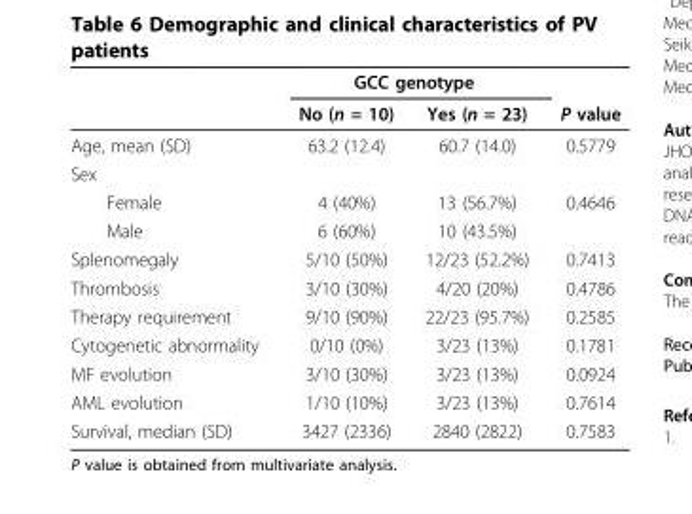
<table><thead><tr><td rowspan="2"></td><td colspan="2">GCC genotype</td><td rowspan="2">P value</td></tr><tr><td>No (n = 10)</td><td>Yes (n = 23)</td></tr></thead><tbody><tr><td>Age, mean (SD)</td><td>63.2 (12.4)</td><td>60.7 (14.0)</td><td>0.5779</td></tr><tr><td colspan="4">Sex</td></tr><tr><td>Female</td><td>4 (40%)</td><td>13 (56.7%)</td><td>0.4646</td></tr><tr><td>Male</td><td>6 (60%)</td><td>10 (43.5%)</td><td></td></tr><tr><td>Splenomegaly</td><td>5/10 (50%)</td><td>12/23 (52.2%)</td><td>0.7413</td></tr><tr><td>Thrombosis</td><td>3/10 (30%)</td><td>4/20 (20%)</td><td>0.4786</td></tr><tr><td>Therapy requirement</td><td>9/10 (90%)</td><td>22/23 (95.7%)</td><td>0.2585</td></tr><tr><td>Cytogenetic abnormality</td><td>0/10 (0%)</td><td>3/23 (13%)</td><td>0.1781</td></tr><tr><td>MF evolution</td><td>3/10 (30%)</td><td>3/23 (13%)</td><td>0.0924</td></tr><tr><td>AML evolution</td><td>1/10 (10%)</td><td>3/23 (13%)</td><td>0.7614</td></tr><tr><td>Survival, median (SD)</td><td>3427 (2336)</td><td>2840 (2822)</td><td>0.7583</td></tr></tbody></table>